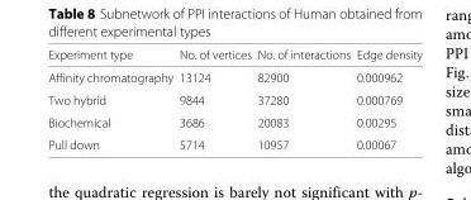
<table><thead><tr><td>Experiment type</td><td>No. of vertices</td><td>No. of interactions</td><td>Edge density</td></tr></thead><tbody><tr><td>Affinity chromatography</td><td>13124</td><td>82900</td><td>0.000962</td></tr><tr><td>Two hybrid</td><td>9844</td><td>37280</td><td>0.000769</td></tr><tr><td>Biochemical</td><td>3686</td><td>20083</td><td>0.00295</td></tr><tr><td>Pull down</td><td>5714</td><td>10957</td><td>0.00067</td></tr></tbody></table>